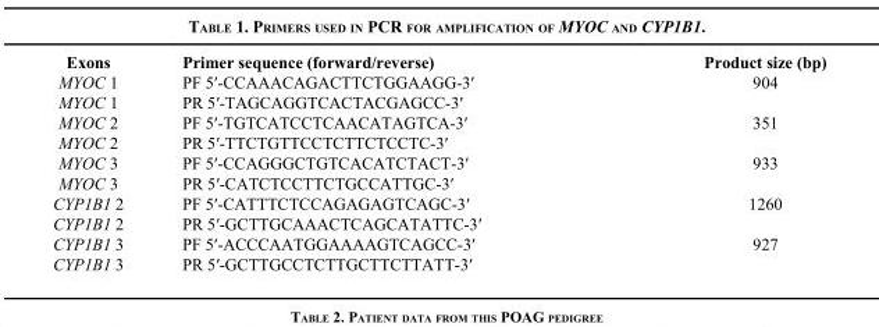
<table><thead><tr><td>Exons</td><td>Primer sequence (forward/reverse)</td><td>Product size (bp)</td></tr></thead><tbody><tr><td>MYOC 1</td><td>PF 5′-CCAAACAGACTTCTGGAAGG-3′</td><td>904</td></tr><tr><td>MYOC 1</td><td>PR 5′-TAGCAGGTCACTACGAGCC-3′</td><td></td></tr><tr><td>MYOC 2</td><td>PF 5′-TGTCATCCTCAACATAGTCA-3′</td><td>351</td></tr><tr><td>MYOC 2</td><td>PR 5′-TTCTGTTCCTCTTCTCCTC-3′</td><td></td></tr><tr><td>MYOC 3</td><td>PF 5′-CCAGGGCTGTCACATCTACT-3′</td><td>933</td></tr><tr><td>MYOC 3</td><td>PR 5′-CATCTCCTTCTGCCATTGC-3′</td><td></td></tr><tr><td>CYP1B1 2</td><td>PF 5′-CATTTCTCCAGAGAGTCAGC-3′</td><td>1260</td></tr><tr><td>CYP1B1 2</td><td>PR 5′-GCTTGCAAACTCAGCATATTC-3′</td><td></td></tr><tr><td>CYP1B1 3</td><td>PF 5′-ACCCAATGGAAAAGTCAGCC-3′</td><td>927</td></tr><tr><td>CYP1B1 3</td><td>PR 5′-GCTTGCCTCTTGCTTCTTATT-3′</td><td></td></tr></tbody></table>